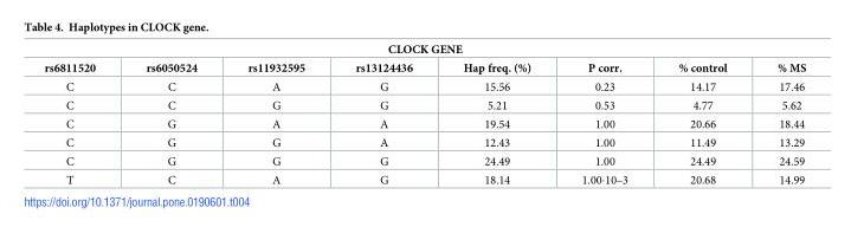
<table><thead><tr><td colspan="8">CLOCK GENE</td></tr><tr><td>rs6811520</td><td>rs6050524</td><td>rs11932595</td><td>rs13124436</td><td>Hap freq. (%)</td><td>P corr.</td><td>% control</td><td>% MS</td></tr></thead><tbody><tr><td>C</td><td>C</td><td>A</td><td>G</td><td>15.56</td><td>0.23</td><td>14.17</td><td>17.46</td></tr><tr><td>C</td><td>C</td><td>G</td><td>G</td><td>5.21</td><td>0.53</td><td>4.77</td><td>5.62</td></tr><tr><td>C</td><td>G</td><td>A</td><td>A</td><td>19.54</td><td>1.00</td><td>20.66</td><td>18.44</td></tr><tr><td>C</td><td>G</td><td>G</td><td>A</td><td>12.43</td><td>1.00</td><td>11.49</td><td>13.29</td></tr><tr><td>C</td><td>G</td><td>G</td><td>G</td><td>24.49</td><td>1.00</td><td>24.49</td><td>24.59</td></tr><tr><td>T</td><td>C</td><td>A</td><td>G</td><td>18.14</td><td>1.00∙10–3</td><td>20.68</td><td>14.99</td></tr></tbody></table>